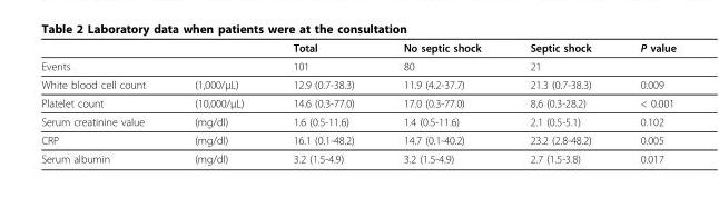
<table><thead><tr><td></td><td></td><td>Total</td><td>No septic shock</td><td>Septic shock</td><td>P value</td></tr></thead><tbody><tr><td colspan="2">Events</td><td>101</td><td>80</td><td>21</td><td></td></tr><tr><td>White blood cell count</td><td>(1,000/μL)</td><td>12.9 (0.7-38.3)</td><td>11.9 (4.2-37.7)</td><td>21.3 (0.7-38.3)</td><td>0.009</td></tr><tr><td>Platelet count</td><td>(10,000/μL)</td><td>14.6 (0.3-77.0)</td><td>17.0 (0.3-77.0)</td><td>8.6 (0.3-28.2)</td><td>&lt; 0.001</td></tr><tr><td>Serum creatinine value</td><td>(mg/dl)</td><td>1.6 (0.5-11.6)</td><td>1.4 (0.5-11.6)</td><td>2.1 (0.5-5.1)</td><td>0.102</td></tr><tr><td>CRP</td><td>(mg/dl)</td><td>16.1 (0.1-48.2)</td><td>14.7 (0.1-40.2)</td><td>23.2 (2.8-48.2)</td><td>0.005</td></tr><tr><td>Serum albumin</td><td>(mg/dl)</td><td>3.2 (1.5-4.9)</td><td>3.2 (1.5-4.9)</td><td>2.7 (1.5-3.8)</td><td>0.017</td></tr></tbody></table>